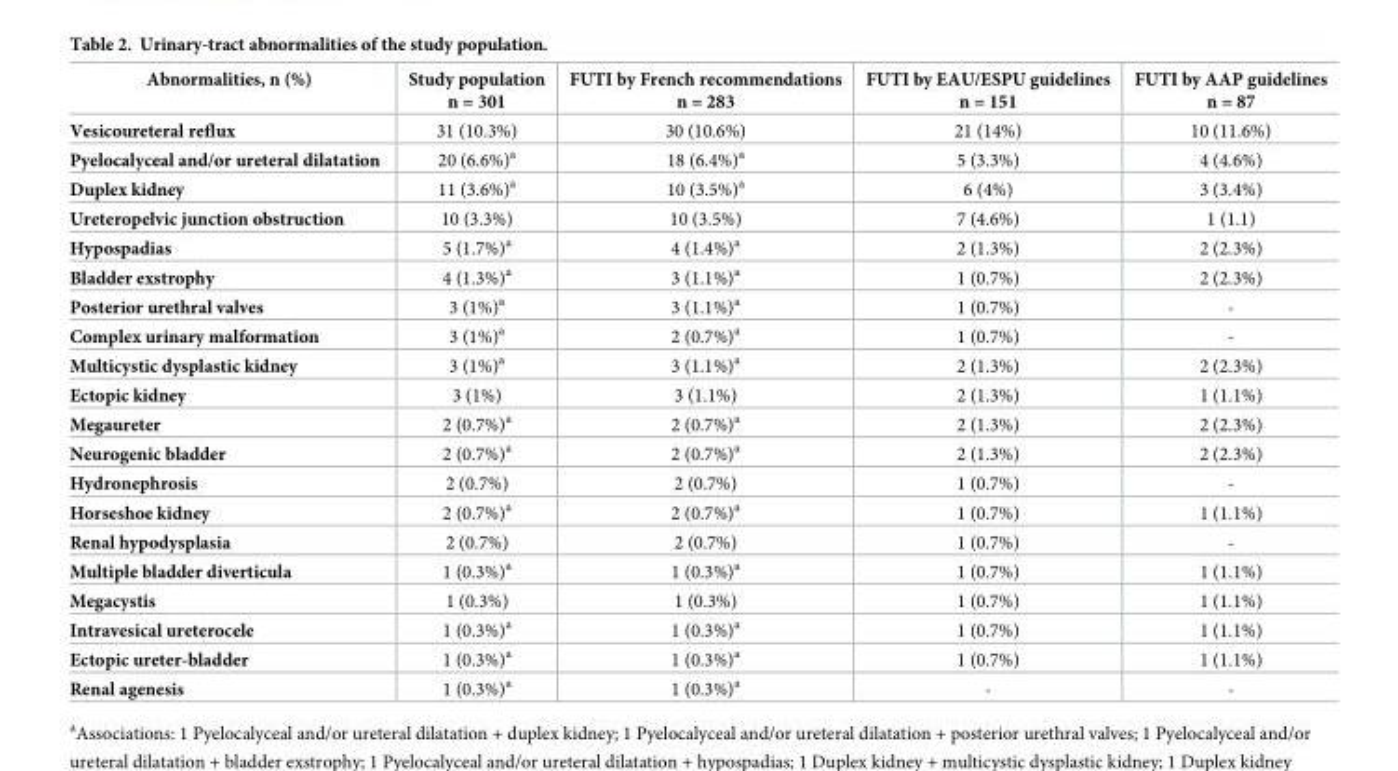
<table><thead><tr><td>Abnormalities, n (%)</td><td>Study population n = 301</td><td>FUTI by French recommendations n = 283</td><td>FUTI by EAU/ESPU guidelines n = 151</td><td>FUTI by AAP guidelines n = 87</td></tr></thead><tbody><tr><td>Vesicoureteral reflux</td><td>31 (10.3%)</td><td>30 (10.6%)</td><td>21 (14%)</td><td>10 (11.6%)</td></tr><tr><td>Pyelocalyceal and/or ureteral dilatation</td><td>20 (6.6%)<sup>a</sup></td><td>18 (6.4%)<sup>a</sup></td><td>5 (3.3%)</td><td>4 (4.6%)</td></tr><tr><td>Duplex kidney</td><td>11 (3.6%)<sup>a</sup></td><td>10 (3.5%)<sup>a</sup></td><td>6 (4%)</td><td>3 (3.4%)</td></tr><tr><td>Ureteropelvic junction obstruction</td><td>10 (3.3%)</td><td>10 (3.5%)</td><td>7 (4.6%)</td><td>1 (1.1)</td></tr><tr><td>Hypospadias</td><td>5 (1.7%)<sup>a</sup></td><td>4 (1.4%)<sup>a</sup></td><td>2 (1.3%)</td><td>2 (2.3%)</td></tr><tr><td>Bladder exstrophy</td><td>4 (1.3%)<sup>a</sup></td><td>3 (1.1%)<sup>a</sup></td><td>1 (0.7%)</td><td>2 (2.3%)</td></tr><tr><td>Posterior urethral valves</td><td>3 (1%)<sup>a</sup></td><td>3 (1.1%)<sup>a</sup></td><td>1 (0.7%)</td><td>-</td></tr><tr><td>Complex urinary malformation</td><td>3 (1%)<sup>a</sup></td><td>2 (0.7%)<sup>a</sup></td><td>1 (0.7%)</td><td>-</td></tr><tr><td>Multicystic dysplastic kidney</td><td>3 (1%)<sup>a</sup></td><td>3 (1.1%)<sup>a</sup></td><td>2 (1.3%)</td><td>2 (2.3%)</td></tr><tr><td>Ectopic kidney</td><td>3 (1%)</td><td>3 (1.1%)</td><td>2 (1.3%)</td><td>1 (1.1%)</td></tr><tr><td>Megaureter</td><td>2 (0.7%)<sup>a</sup></td><td>2 (0.7%)<sup>a</sup></td><td>2 (1.3%)</td><td>2 (2.3%)</td></tr><tr><td>Neurogenic bladder</td><td>2 (0.7%)<sup>a</sup></td><td>2 (0.7%)<sup>a</sup></td><td>2 (1.3%)</td><td>2 (2.3%)</td></tr><tr><td>Hydronephrosis</td><td>2 (0.7%)</td><td>2 (0.7%)</td><td>1 (0.7%)</td><td>-</td></tr><tr><td>Horseshoe kidney</td><td>2 (0.7%)<sup>a</sup></td><td>2 (0.7%)<sup>a</sup></td><td>1 (0.7%)</td><td>1 (1.1%)</td></tr><tr><td>Renal hypodysplasia</td><td>2 (0.7%)</td><td>2 (0.7%)</td><td>1 (0.7%)</td><td>-</td></tr><tr><td>Multiple bladder diverticula</td><td>1 (0.3%)<sup>a</sup></td><td>1 (0.3%)<sup>a</sup></td><td>1 (0.7%)</td><td>1 (1.1%)</td></tr><tr><td>Megacystis</td><td>1 (0.3%)</td><td>1 (0.3%)</td><td>1 (0.7%)</td><td>1 (1.1%)</td></tr><tr><td>Intravesical ureterocele</td><td>1 (0.3%)<sup>a</sup></td><td>1 (0.3%)<sup>a</sup></td><td>1 (0.7%)</td><td>1 (1.1%)</td></tr><tr><td>Ectopic ureter-bladder</td><td>1 (0.3%)<sup>a</sup></td><td>1 (0.3%)<sup>a</sup></td><td>1 (0.7%)</td><td>1 (1.1%)</td></tr><tr><td>Renal agenesis</td><td>1 (0.3%)<sup>a</sup></td><td>1 (0.3%)<sup>a</sup></td><td>-</td><td>-</td></tr></tbody></table>